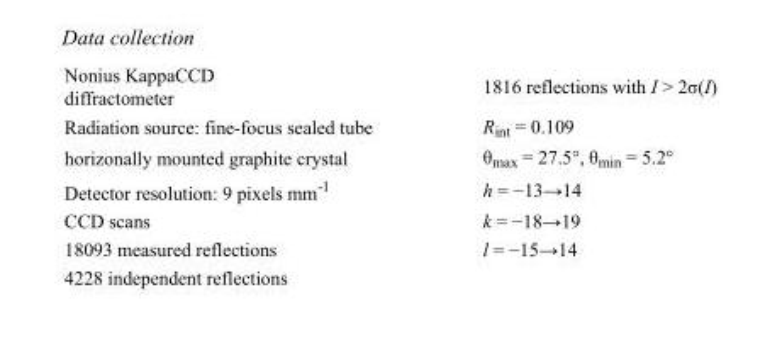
<table><tbody><tr><td>Nonius KappaCCD diffractometer</td><td>1816 reflections with I &gt; 2σ(I)</td></tr><tr><td>Radiation source: fine-focus sealed tube</td><td>R<sub>int</sub> = 0.109</td></tr><tr><td>horizonally mounted graphite crystal</td><td>θ<sub>max</sub> = 27.5°, θ<sub>min</sub> = 5.2°</td></tr><tr><td>Detector resolution: 9 pixels mm<sup>-1</sup></td><td>h = −13→14</td></tr><tr><td>CCD scans</td><td>k = −18→19</td></tr><tr><td>18093 measured reflections</td><td>l = −15→14</td></tr><tr><td>4228 independent reflections</td><td></td></tr></tbody></table>